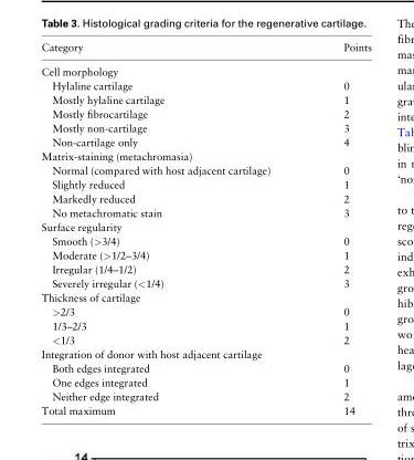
<table><thead><tr><td>Category</td><td>Points</td></tr></thead><tbody><tr><td colspan="2">Cell morphology</td></tr><tr><td>Hylaline cartilage</td><td>0</td></tr><tr><td>Mostly hylaline cartilage</td><td>1</td></tr><tr><td>Mostly fibrocartilage</td><td>2</td></tr><tr><td>Mostly non-cartilage</td><td>3</td></tr><tr><td>Non-cartilage only</td><td>4</td></tr><tr><td colspan="2">Matrix-staining (metachromasia)</td></tr><tr><td>Normal (compared with host adjacent cartilage)</td><td>0</td></tr><tr><td>Slightly reduced</td><td>1</td></tr><tr><td>Markedly reduced</td><td>2</td></tr><tr><td>No metachromatic stain</td><td>3</td></tr><tr><td colspan="2">Surface regularity</td></tr><tr><td>Smooth (&gt;3/4)</td><td>0</td></tr><tr><td>Moderate (&gt;1/2–3/4)</td><td>1</td></tr><tr><td>Irregular (1/4–1/2)</td><td>2</td></tr><tr><td>Severely irregular (&lt;1/4)</td><td>3</td></tr><tr><td colspan="2">Thickness of cartilage</td></tr><tr><td>&gt;2/3</td><td>0</td></tr><tr><td>1/3–2/3</td><td>1</td></tr><tr><td>&lt;1/3</td><td>2</td></tr><tr><td colspan="2">Integration of donor with host adjacent cartilage</td></tr><tr><td>Both edges integrated</td><td>0</td></tr><tr><td>One edges integrated</td><td>1</td></tr><tr><td>Neither edge integrated</td><td>2</td></tr><tr><td>Total maximum</td><td>14</td></tr></tbody></table>